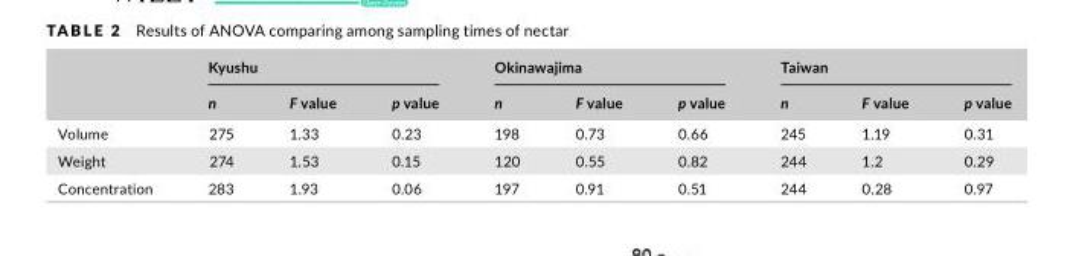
<table><thead><tr><td rowspan="2"></td><td colspan="3">Kyushu</td><td colspan="3">Okinawajima</td><td colspan="3">Taiwan</td></tr><tr><td>n</td><td>F value</td><td>p value</td><td>n</td><td>F value</td><td>p value</td><td>n</td><td>F value</td><td>p value</td></tr></thead><tbody><tr><td>Volume</td><td>275</td><td>1.33</td><td>0.23</td><td>198</td><td>0.73</td><td>0.66</td><td>245</td><td>1.19</td><td>0.31</td></tr><tr><td>Weight</td><td>274</td><td>1.53</td><td>0.15</td><td>120</td><td>0.55</td><td>0.82</td><td>244</td><td>1.2</td><td>0.29</td></tr><tr><td>Concentration</td><td>283</td><td>1.93</td><td>0.06</td><td>197</td><td>0.91</td><td>0.51</td><td>244</td><td>0.28</td><td>0.97</td></tr></tbody></table>